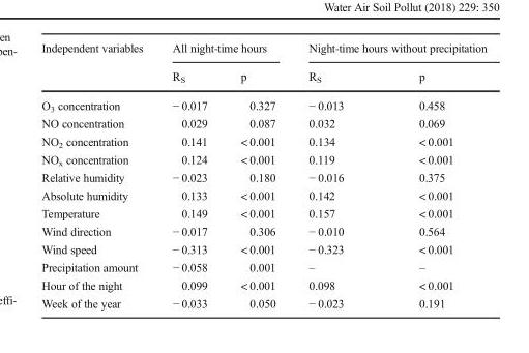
<table><thead><tr><td rowspan="2">Independent variables</td><td colspan="2">All night-time hours</td><td colspan="2">Night-time hours without precipitation</td></tr><tr><td>R<sub>S</sub></td><td>p</td><td>R<sub>S</sub></td><td>p</td></tr></thead><tbody><tr><td>O<sub>3</sub> concentration</td><td>− 0.017</td><td>0.327</td><td>− 0.013</td><td>0.458</td></tr><tr><td>NO concentration</td><td>0.029</td><td>0.087</td><td>0.032</td><td>0.069</td></tr><tr><td>NO<sub>2</sub> concentration</td><td>0.141</td><td>&lt; 0.001</td><td>0.134</td><td>&lt; 0.001</td></tr><tr><td>NO<sub>x</sub> concentration</td><td>0.124</td><td>&lt; 0.001</td><td>0.119</td><td>&lt; 0.001</td></tr><tr><td>Relative humidity</td><td>− 0.023</td><td>0.180</td><td>− 0.016</td><td>0.375</td></tr><tr><td>Absolute humidity</td><td>0.133</td><td>&lt; 0.001</td><td>0.142</td><td>&lt; 0.001</td></tr><tr><td>Temperature</td><td>0.149</td><td>&lt; 0.001</td><td>0.157</td><td>&lt; 0.001</td></tr><tr><td>Wind direction</td><td>− 0.017</td><td>0.306</td><td>− 0.010</td><td>0.564</td></tr><tr><td>Wind speed</td><td>− 0.313</td><td>&lt; 0.001</td><td>− 0.323</td><td>&lt; 0.001</td></tr><tr><td>Precipitation amount</td><td>− 0.058</td><td>0.001</td><td>–</td><td>–</td></tr><tr><td>Hour of the night</td><td>0.099</td><td>&lt; 0.001</td><td>0.098</td><td>&lt; 0.001</td></tr><tr><td>Week of the year</td><td>− 0.033</td><td>0.050</td><td>− 0.023</td><td>0.191</td></tr></tbody></table>